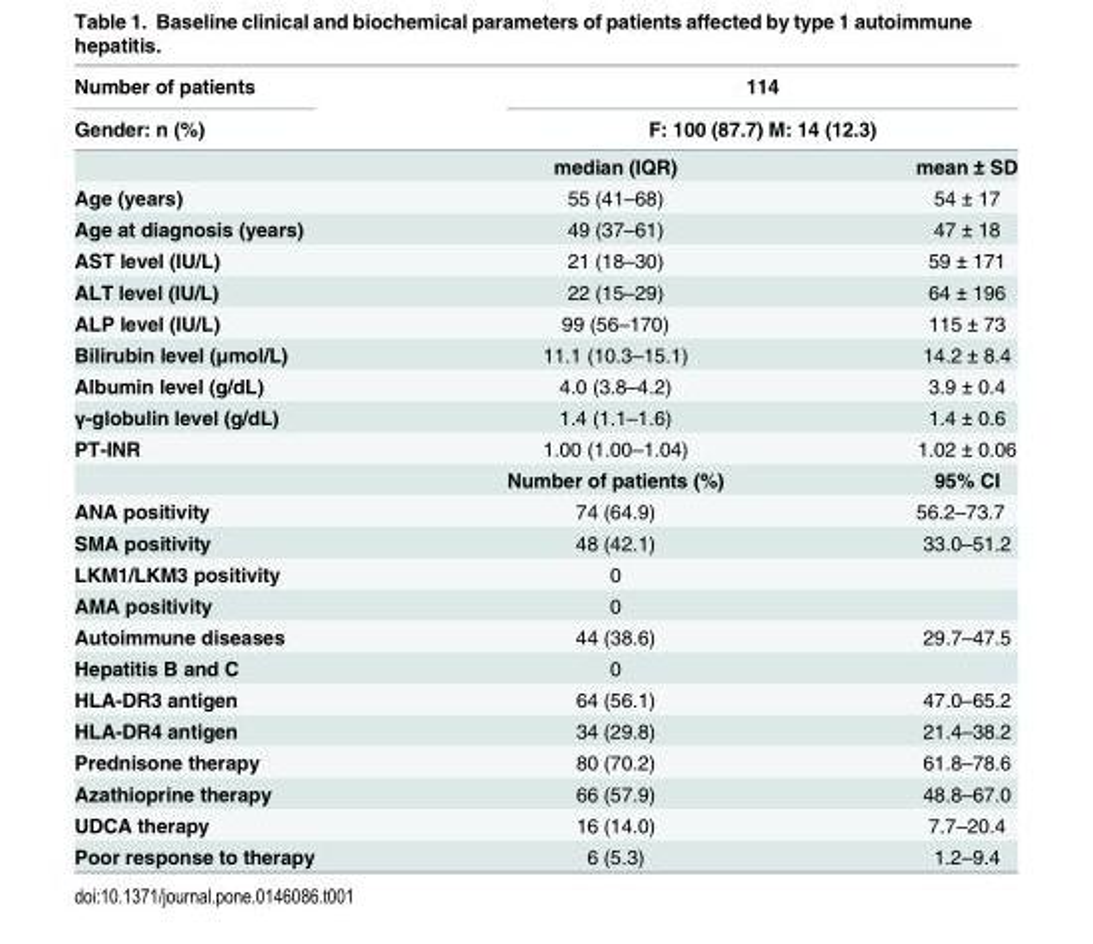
<table><thead><tr><td rowspan="3">Number of patients Gender: n (%)</td><td rowspan="2" colspan="2">114 F: 100 (87.7) M: 14 (12.3)</td></tr><tr></tr><tr><td>median (IQR)</td><td>mean ± SD</td></tr></thead><tbody><tr><td>Age (years)</td><td>55 (41–68)</td><td>54 ± 17</td></tr><tr><td>Age at diagnosis (years)</td><td>49 (37–61)</td><td>47 ± 18</td></tr><tr><td>AST level (IU/L)</td><td>21 (18–30)</td><td>59 ± 171</td></tr><tr><td>ALT level (IU/L)</td><td>22 (15–29)</td><td>64 ± 196</td></tr><tr><td>ALP level (IU/L)</td><td>99 (56–170)</td><td>115 ± 73</td></tr><tr><td>Bilirubin level (μmol/L)</td><td>11.1 (10.3–15.1)</td><td>14.2 ± 8.4</td></tr><tr><td>Albumin level (g/dL)</td><td>4.0 (3.8–4.2)</td><td>3.9 ± 0.4</td></tr><tr><td>γ-globulin level (g/dL)</td><td>1.4 (1.1–1.6)</td><td>1.4 ± 0.6</td></tr><tr><td rowspan="2">PT-INR</td><td>1.00 (1.00–1.04)</td><td>1.02 ± 0.06</td></tr><tr><td>Number of patients (%)</td><td>95% CI</td></tr><tr><td>ANA positivity</td><td>74 (64.9)</td><td>56.2–73.7</td></tr><tr><td>SMA positivity</td><td>48 (42.1)</td><td>33.0–51.2</td></tr><tr><td>LKM1/LKM3 positivity</td><td>0</td><td></td></tr><tr><td>AMA positivity</td><td>0</td><td></td></tr><tr><td>Autoimmune diseases</td><td>44 (38.6)</td><td>29.7–47.5</td></tr><tr><td>Hepatitis B and C</td><td>0</td><td></td></tr><tr><td>HLA-DR3 antigen</td><td>64 (56.1)</td><td>47.0–65.2</td></tr><tr><td>HLA-DR4 antigen</td><td>34 (29.8)</td><td>21.4–38.2</td></tr><tr><td>Prednisone therapy</td><td>80 (70.2)</td><td>61.8–78.6</td></tr><tr><td>Azathioprine therapy</td><td>66 (57.9)</td><td>48.8–67.0</td></tr><tr><td>UDCA therapy</td><td>16 (14.0)</td><td>7.7–20.4</td></tr><tr><td>Poor response to therapy</td><td>6 (5.3)</td><td>1.2–9.4</td></tr></tbody></table>